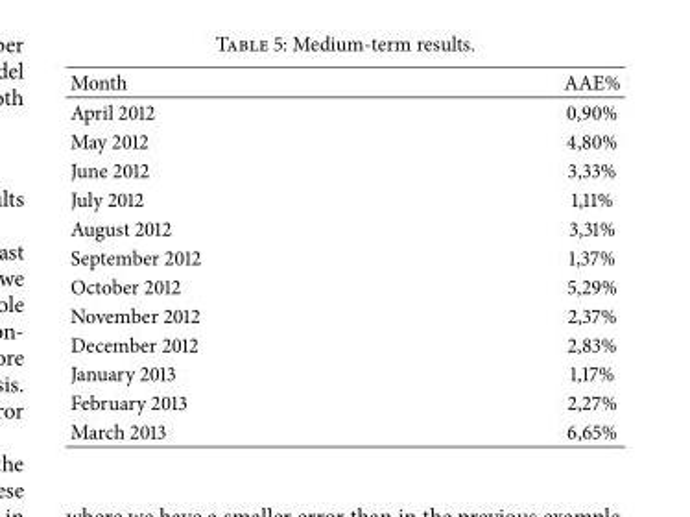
<table><thead><tr><td>Month</td><td>AAE%</td></tr></thead><tbody><tr><td>April 2012</td><td>0,90%</td></tr><tr><td>May 2012</td><td>4,80%</td></tr><tr><td>June 2012</td><td>3,33%</td></tr><tr><td>July 2012</td><td>1,11%</td></tr><tr><td>August 2012</td><td>3,31%</td></tr><tr><td>September 2012</td><td>1,37%</td></tr><tr><td>October 2012</td><td>5,29%</td></tr><tr><td>November 2012</td><td>2,37%</td></tr><tr><td>December 2012</td><td>2,83%</td></tr><tr><td>January 2013</td><td>1,17%</td></tr><tr><td>February 2013</td><td>2,27%</td></tr><tr><td>March 2013</td><td>6,65%</td></tr></tbody></table>